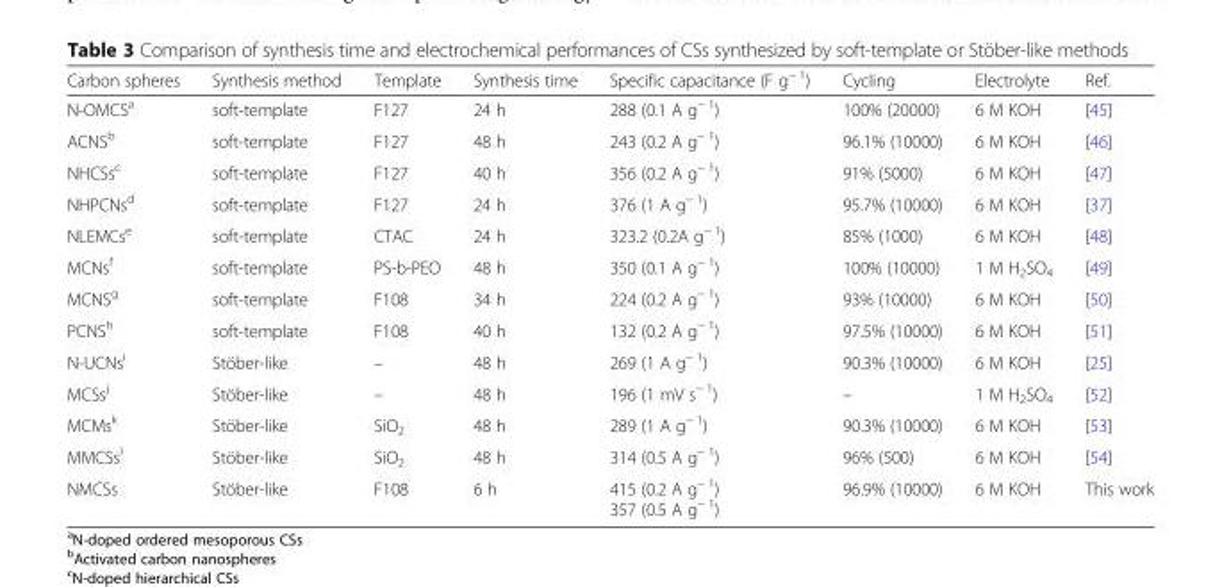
<table><thead><tr><td>Carbon spheres</td><td>Synthesis method</td><td>Template</td><td>Synthesis time</td><td>Specific capacitance (F g<sup>− 1</sup>)</td><td>Cycling</td><td>Electrolyte</td><td>Ref.</td></tr></thead><tbody><tr><td>N-OMCS<sup>a</sup></td><td>soft-template</td><td>F127</td><td>24 h</td><td>288 (0.1 A g<sup>− 1</sup>)</td><td>100% (20000)</td><td>6 M KOH</td><td>[45]</td></tr><tr><td>ACNS<sup>b</sup></td><td>soft-template</td><td>F127</td><td>48 h</td><td>243 (0.2 A g<sup>− 1</sup>)</td><td>96.1% (10000)</td><td>6 M KOH</td><td>[46]</td></tr><tr><td>NHCSs<sup>c</sup></td><td>soft-template</td><td>F127</td><td>40 h</td><td>356 (0.2 A g<sup>− 1</sup>)</td><td>91% (5000)</td><td>6 M KOH</td><td>[47]</td></tr><tr><td>NHPCNs<sup>d</sup></td><td>soft-template</td><td>F127</td><td>24 h</td><td>376 (1 A g<sup>− 1</sup>)</td><td>95.7% (10000)</td><td>6 M KOH</td><td>[37]</td></tr><tr><td>NLEMCs<sup>e</sup></td><td>soft-template</td><td>CTAC</td><td>24 h</td><td>323.2 (0.2A g<sup>− 1</sup>)</td><td>85% (1000)</td><td>6 M KOH</td><td>[48]</td></tr><tr><td>MCNs<sup>f</sup></td><td>soft-template</td><td>PS-b-PEO</td><td>48 h</td><td>350 (0.1 A g<sup>− 1</sup>)</td><td>100% (10000)</td><td>1 M H<sub>2</sub>SO<sub>4</sub></td><td>[49]</td></tr><tr><td>MCNS<sup>g</sup></td><td>soft-template</td><td>F108</td><td>34 h</td><td>224 (0.2 A g<sup>− 1</sup>)</td><td>93% (10000)</td><td>6 M KOH</td><td>[50]</td></tr><tr><td>PCNS<sup>h</sup></td><td>soft-template</td><td>F108</td><td>40 h</td><td>132 (0.2 A g<sup>− 1</sup>)</td><td>97.5% (10000)</td><td>6 M KOH</td><td>[51]</td></tr><tr><td>N-UCNs<sup>i</sup></td><td>Stöber-like</td><td>–</td><td>48 h</td><td>269 (1 A g<sup>− 1</sup>)</td><td>90.3% (10000)</td><td>6 M KOH</td><td>[25]</td></tr><tr><td>MCSs<sup>j</sup></td><td>Stöber-like</td><td>–</td><td>48 h</td><td>196 (1 mV s<sup>− 1</sup>)</td><td>–</td><td>1 M H<sub>2</sub>SO<sub>4</sub></td><td>[52]</td></tr><tr><td>MCMs<sup>k</sup></td><td>Stöber-like</td><td>SiO<sub>2</sub></td><td>48 h</td><td>289 (1 A g<sup>− 1</sup>)</td><td>90.3% (10000)</td><td>6 M KOH</td><td>[53]</td></tr><tr><td>MMCSs<sup>l</sup></td><td>Stöber-like</td><td>SiO<sub>2</sub></td><td>48 h</td><td>314 (0.5 A g<sup>− 1</sup>)</td><td>96% (500)</td><td>6 M KOH</td><td>[54]</td></tr><tr><td>NMCSs</td><td>Stöber-like</td><td>F108</td><td>6 h</td><td>415 (0.2 A g<sup>− 1</sup>) 357 (0.5 A g<sup>− 1</sup>)</td><td>96.9% (10000)</td><td>6 M KOH</td><td>This work</td></tr></tbody></table>